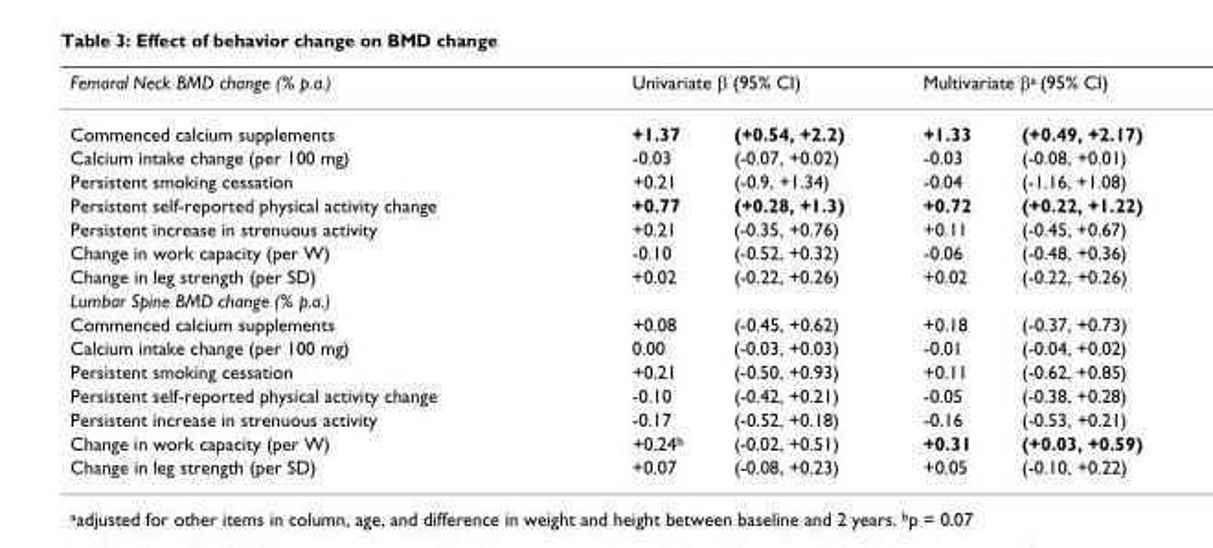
<table><thead><tr><td rowspan="2">Femoral Neck BMD change (% p.a.) Commenced calcium supplements</td><td colspan="2">Univariate β (95% CI)</td><td colspan="2">Multivariate βa (95% CI)</td></tr><tr><td>+1.37</td><td>(+0.54, +2.2)</td><td>+1.33</td><td>(+0.49, +2.17)</td></tr></thead><tbody><tr><td>Calcium intake change (per 100 mg)</td><td>-0.03</td><td>(-0.07, +0.02)</td><td>-0.03</td><td>(-0.08, +0.01)</td></tr><tr><td>Persistent smoking cessation</td><td>+0.21</td><td>(-0.9, +1.34)</td><td>-0.04</td><td>(-1.16, +1.08)</td></tr><tr><td>Persistent self-reported physical activity change</td><td>+0.77</td><td>(+0.28, +1.3)</td><td>+0.72</td><td>(+0.22, +1.22)</td></tr><tr><td>Persistent increase in strenuous activity</td><td>+0.21</td><td>(-0.35, +0.76)</td><td>+0.11</td><td>(-0.45, +0.67)</td></tr><tr><td>Change in work capacity (per W)</td><td>-0.10</td><td>(-0.52, +0.32)</td><td>-0.06</td><td>(-0.48, +0.36)</td></tr><tr><td>Change in leg strength (per SD)</td><td>+0.02</td><td>(-0.22, +0.26)</td><td>+0.02</td><td>(-0.22, +0.26)</td></tr><tr><td colspan="5">Lumbar Spine BMD change (% p.a.)</td></tr><tr><td>Commenced calcium supplements</td><td>+0.08</td><td>(-0.45, +0.62)</td><td>+0.18</td><td>(-0.37, +0.73)</td></tr><tr><td>Calcium intake change (per 100 mg)</td><td>0.00</td><td>(-0.03, +0.03)</td><td>-0.01</td><td>(-0.04, +0.02)</td></tr><tr><td>Persistent smoking cessation</td><td>+0.21</td><td>(-0.50, +0.93)</td><td>+0.11</td><td>(-0.62, +0.85)</td></tr><tr><td>Persistent self-reported physical activity change</td><td>-0.10</td><td>(-0.42, +0.21)</td><td>-0.05</td><td>(-0.38, +0.28)</td></tr><tr><td>Persistent increase in strenuous activity</td><td>-0.17</td><td>(-0.52, +0.18)</td><td>-0.16</td><td>(-0.53, +0.21)</td></tr><tr><td>Change in work capacity (per W)</td><td>+0.24b</td><td>(-0.02, +0.51)</td><td>+0.31</td><td>(+0.03, +0.59)</td></tr><tr><td>Change in leg strength (per SD)</td><td>+0.07</td><td>(-0.08, +0.23)</td><td>+0.05</td><td>(-0.10, +0.22)</td></tr></tbody></table>